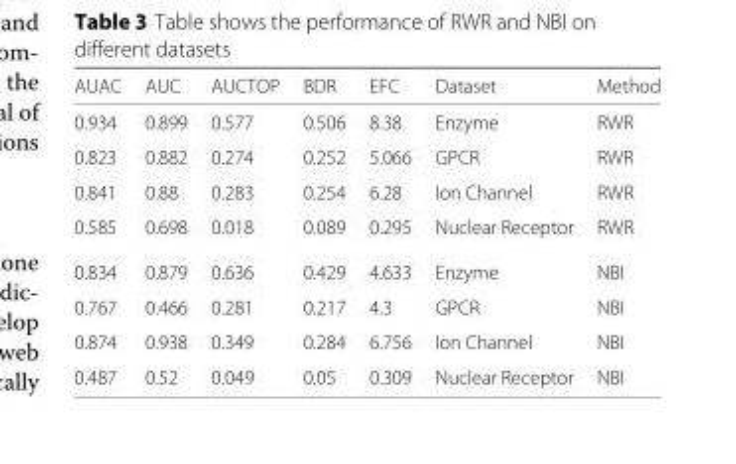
<table><thead><tr><td>AUAC</td><td>AUC</td><td>AUCTOP</td><td>BDR</td><td>EFC</td><td>Dataset</td><td>Method</td></tr></thead><tbody><tr><td>0.934</td><td>0.899</td><td>0.577</td><td>0.506</td><td>8.38</td><td>Enzyme</td><td>RWR</td></tr><tr><td>0.823</td><td>0.882</td><td>0.274</td><td>0.252</td><td>5.066</td><td>GPCR</td><td>RWR</td></tr><tr><td>0.841</td><td>0.88</td><td>0.283</td><td>0.254</td><td>6.28</td><td>Ion Channel</td><td>RWR</td></tr><tr><td>0.585</td><td>0.698</td><td>0.018</td><td>0.089</td><td>0.295</td><td>Nuclear Receptor</td><td>RWR</td></tr><tr><td>0.834</td><td>0.879</td><td>0.636</td><td>0.429</td><td>4.633</td><td>Enzyme</td><td>NBI</td></tr><tr><td>0.767</td><td>0.466</td><td>0.281</td><td>0.217</td><td>4.3</td><td>GPCR</td><td>NBI</td></tr><tr><td>0.874</td><td>0.938</td><td>0.349</td><td>0.284</td><td>6.756</td><td>Ion Channel</td><td>NBI</td></tr><tr><td>0.487</td><td>0.52</td><td>0.049</td><td>0.05</td><td>0.309</td><td>Nuclear Receptor</td><td>NBI</td></tr></tbody></table>